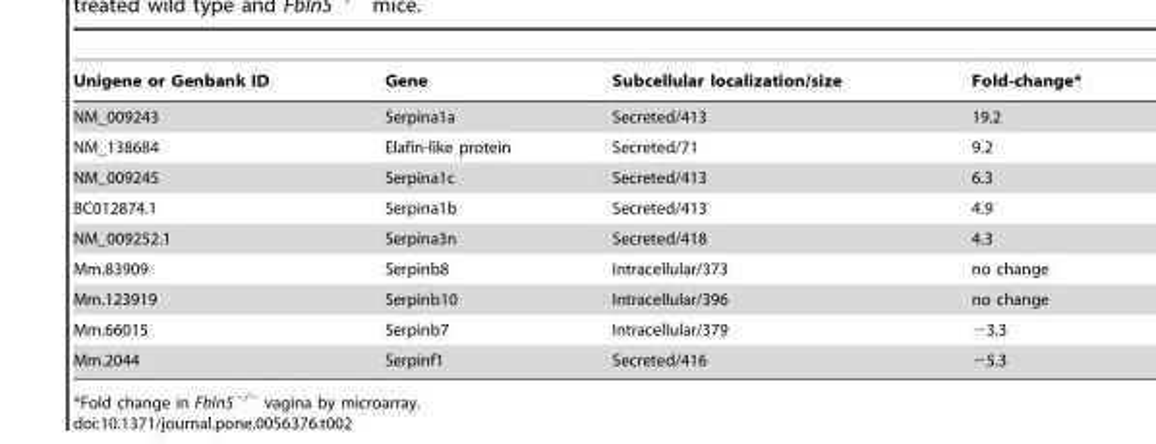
<table><thead><tr><td>Unigene or Genbank ID</td><td>Gene</td><td>Subcellular localization/size</td><td>Fold-change*</td></tr></thead><tbody><tr><td>NM_009243</td><td>Serpina1a</td><td>Secreted/413</td><td>19.2</td></tr><tr><td>NM_138684</td><td>Elafin-like protein</td><td>Secreted/71</td><td>9.2</td></tr><tr><td>NM_009245</td><td>Serpina1c</td><td>Secreted/413</td><td>6.3</td></tr><tr><td>BC012874.1</td><td>Serpina1b</td><td>Secreted/413</td><td>4.9</td></tr><tr><td>NM_009252.1</td><td>Serpina3n</td><td>Secreted/418</td><td>4.3</td></tr><tr><td>Mm.83909</td><td>Serpinb8</td><td>Intracellular/373</td><td>no change</td></tr><tr><td>Mm.123919</td><td>Serpinb10</td><td>Intracellular/396</td><td>no change</td></tr><tr><td>Mm.66015</td><td>Serpinb7</td><td>Intracellular/379</td><td>−3.3</td></tr><tr><td>Mm.2044</td><td>Serpinf1</td><td>Secreted/416</td><td>−5.3</td></tr></tbody></table>